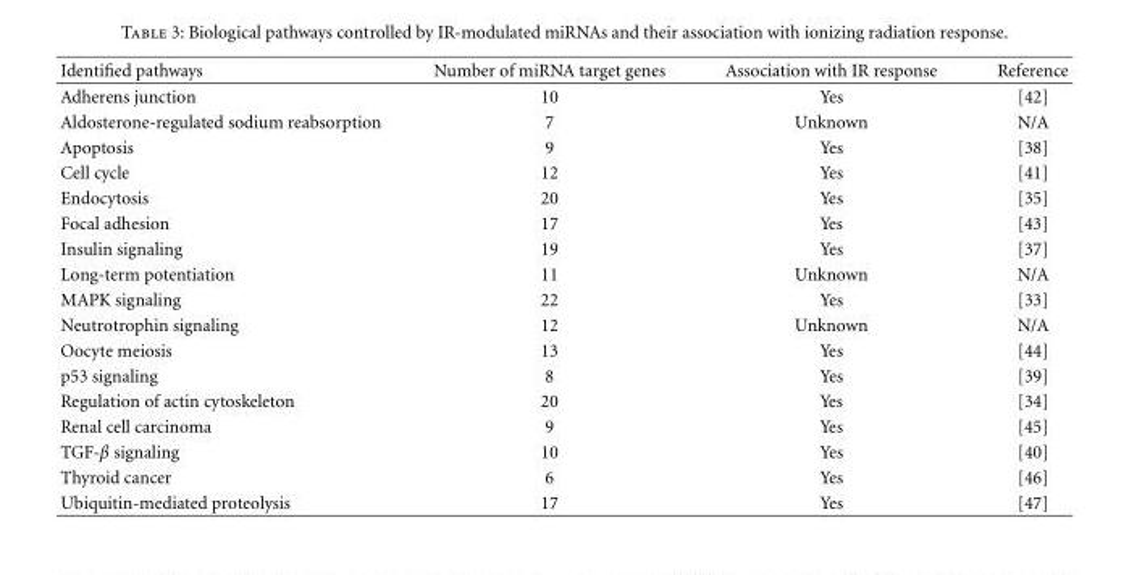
<table><thead><tr><td>Identified pathways</td><td>Number of miRNA target genes</td><td>Association with IR response</td><td>Reference</td></tr></thead><tbody><tr><td>Adherens junction</td><td>10</td><td>Yes</td><td>[42]</td></tr><tr><td>Aldosterone-regulated sodium reabsorption</td><td>7</td><td>Unknown</td><td>N/A</td></tr><tr><td>Apoptosis</td><td>9</td><td>Yes</td><td>[38]</td></tr><tr><td>Cell cycle</td><td>12</td><td>Yes</td><td>[41]</td></tr><tr><td>Endocytosis</td><td>20</td><td>Yes</td><td>[35]</td></tr><tr><td>Focal adhesion</td><td>17</td><td>Yes</td><td>[43]</td></tr><tr><td>Insulin signaling</td><td>19</td><td>Yes</td><td>[37]</td></tr><tr><td>Long-term potentiation</td><td>11</td><td>Unknown</td><td>N/A</td></tr><tr><td>MAPK signaling</td><td>22</td><td>Yes</td><td>[33]</td></tr><tr><td>Neutrotrophin signaling</td><td>12</td><td>Unknown</td><td>N/A</td></tr><tr><td>Oocyte meiosis</td><td>13</td><td>Yes</td><td>[44]</td></tr><tr><td>p53 signaling</td><td>8</td><td>Yes</td><td>[39]</td></tr><tr><td>Regulation of actin cytoskeleton</td><td>20</td><td>Yes</td><td>[34]</td></tr><tr><td>Renal cell carcinoma</td><td>9</td><td>Yes</td><td>[45]</td></tr><tr><td>TGF-β signaling</td><td>10</td><td>Yes</td><td>[40]</td></tr><tr><td>Thyroid cancer</td><td>6</td><td>Yes</td><td>[46]</td></tr><tr><td>Ubiquitin-mediated proteolysis</td><td>17</td><td>Yes</td><td>[47]</td></tr></tbody></table>